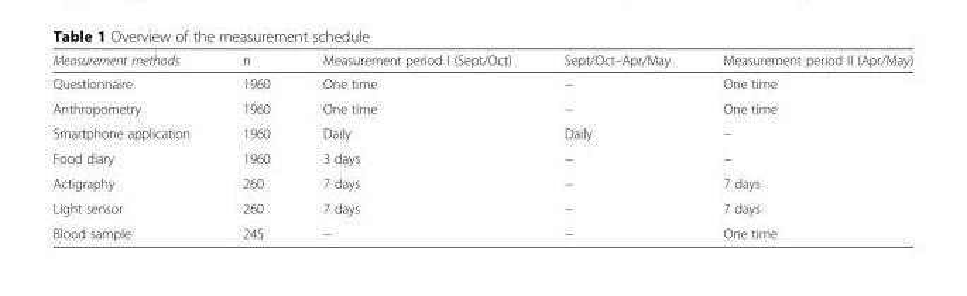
<table><thead><tr><td>Measurement methods</td><td>n</td><td>Measurement period I (Sept/Oct)</td><td>Sept/Oct–Apr/May</td><td>Measurement period II (Apr/May)</td></tr></thead><tbody><tr><td>Questionnaire</td><td>1960</td><td>One time</td><td>−</td><td>One time</td></tr><tr><td>Anthropometry</td><td>1960</td><td>One time</td><td>−</td><td>One time</td></tr><tr><td>Smartphone application</td><td>1960</td><td>Daily</td><td>Daily</td><td>−</td></tr><tr><td>Food diary</td><td>1960</td><td>3 days</td><td>−</td><td>−</td></tr><tr><td>Actigraphy</td><td>260</td><td>7 days</td><td>−</td><td>7 days</td></tr><tr><td>Light sensor</td><td>260</td><td>7 days</td><td>−</td><td>7 days</td></tr><tr><td>Blood sample</td><td>245</td><td>−</td><td>−</td><td>One time</td></tr></tbody></table>